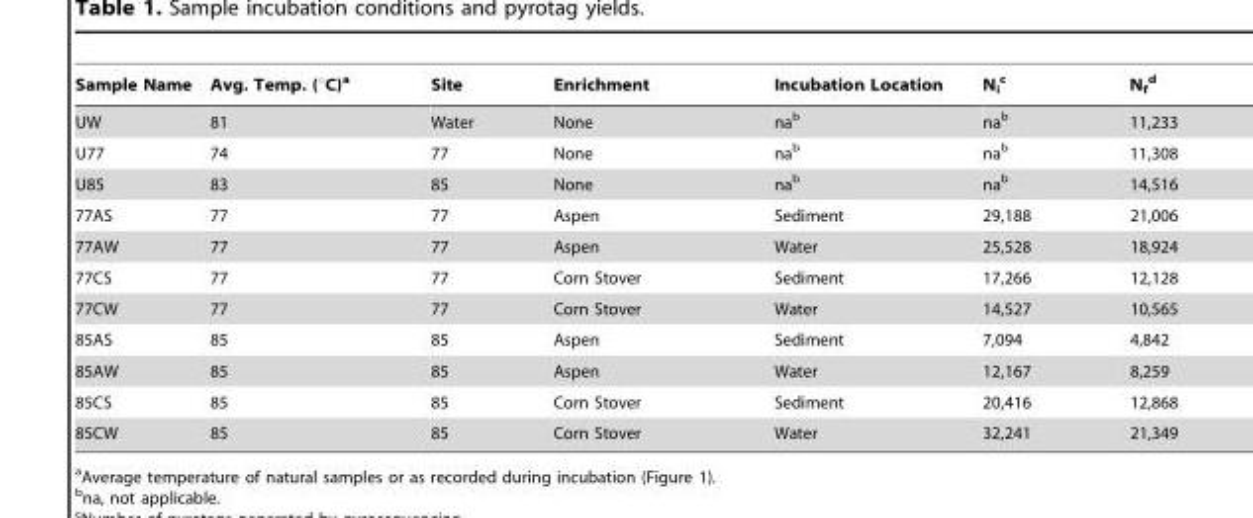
<table><thead><tr><td>Sample Name</td><td>Avg. Temp. (°C)<sup>a</sup></td><td>Site</td><td>Enrichment</td><td>Incubation Location</td><td>N<sub>i</sub> c</td><td>N<sub>f</sub> d</td></tr></thead><tbody><tr><td>UW</td><td>81</td><td>Water</td><td>None</td><td>na<sup>b</sup></td><td>na<sup>b</sup></td><td>11,233</td></tr><tr><td>U77</td><td>74</td><td>77</td><td>None</td><td>na<sup>b</sup></td><td>na<sup>b</sup></td><td>11,308</td></tr><tr><td>U85</td><td>83</td><td>85</td><td>None</td><td>na<sup>b</sup></td><td>na<sup>b</sup></td><td>14,516</td></tr><tr><td>77AS</td><td>77</td><td>77</td><td>Aspen</td><td>Sediment</td><td>29,188</td><td>21,006</td></tr><tr><td>77AW</td><td>77</td><td>77</td><td>Aspen</td><td>Water</td><td>25,528</td><td>18,924</td></tr><tr><td>77CS</td><td>77</td><td>77</td><td>Corn Stover</td><td>Sediment</td><td>17,266</td><td>12,128</td></tr><tr><td>77CW</td><td>77</td><td>77</td><td>Corn Stover</td><td>Water</td><td>14,527</td><td>10,565</td></tr><tr><td>85AS</td><td>85</td><td>85</td><td>Aspen</td><td>Sediment</td><td>7,094</td><td>4,842</td></tr><tr><td>85AW</td><td>85</td><td>85</td><td>Aspen</td><td>Water</td><td>12,167</td><td>8,259</td></tr><tr><td>85CS</td><td>85</td><td>85</td><td>Corn Stover</td><td>Sediment</td><td>20,416</td><td>12,868</td></tr><tr><td>85CW</td><td>85</td><td>85</td><td>Corn Stover</td><td>Water</td><td>32,241</td><td>21,349</td></tr></tbody></table>